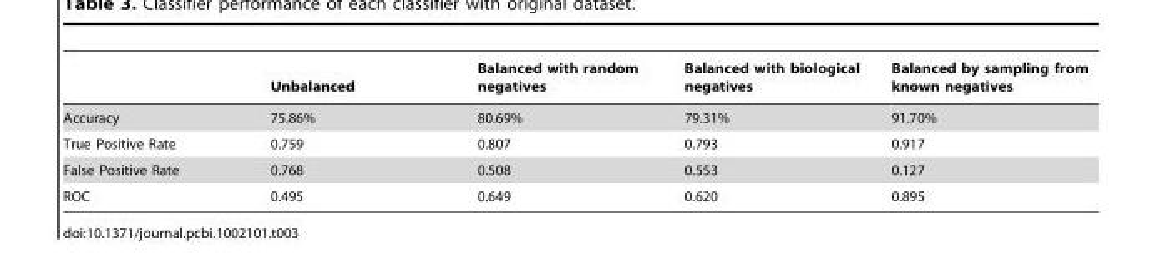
<table><thead><tr><td></td><td>Unbalanced</td><td>Balanced with random negatives</td><td>Balanced with biological negatives</td><td>Balanced by sampling from known negatives</td></tr></thead><tbody><tr><td>Accuracy</td><td>75.86%</td><td>80.69%</td><td>79.31%</td><td>91.70%</td></tr><tr><td>True Positive Rate</td><td>0.759</td><td>0.807</td><td>0.793</td><td>0.917</td></tr><tr><td>False Positive Rate</td><td>0.768</td><td>0.508</td><td>0.553</td><td>0.127</td></tr><tr><td>ROC</td><td>0.495</td><td>0.649</td><td>0.620</td><td>0.895</td></tr></tbody></table>